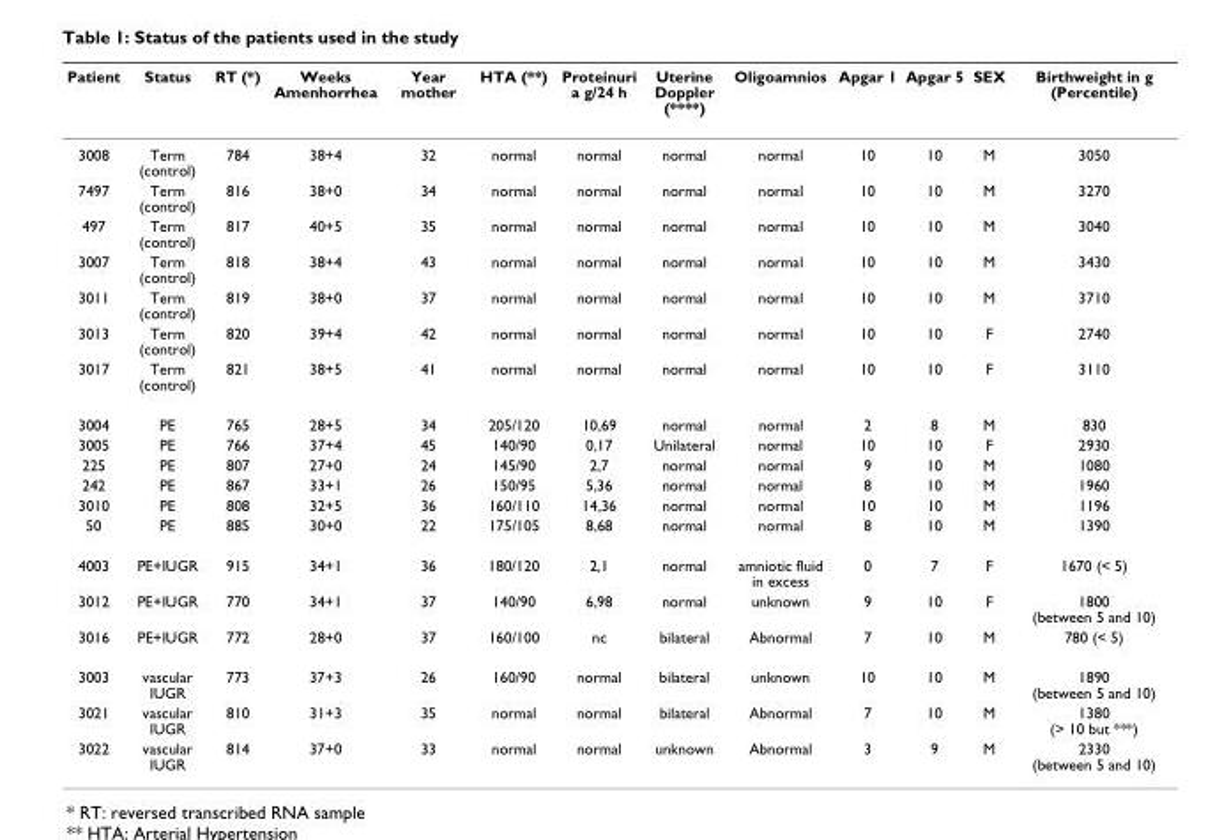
<table><thead><tr><td>Patient</td><td>Status</td><td>RT (*)</td><td>Weeks Amenhorrhea</td><td>Year mother</td><td>HTA (**)</td><td>Proteinuri a g/24 h</td><td>Uterine Doppler (****)</td><td>Oligoamnios</td><td>Apgar 1</td><td>Apgar 5</td><td>SEX</td><td>Birthweight in g (Percentile)</td></tr></thead><tbody><tr><td>3008</td><td>Term (control)</td><td>784</td><td>38+4</td><td>32</td><td>normal</td><td>normal</td><td>normal</td><td>normal</td><td>10</td><td>10</td><td>M</td><td>3050</td></tr><tr><td>7497</td><td>Term (control)</td><td>816</td><td>38+0</td><td>34</td><td>normal</td><td>normal</td><td>normal</td><td>normal</td><td>10</td><td>10</td><td>M</td><td>3270</td></tr><tr><td>497</td><td>Term (control)</td><td>817</td><td>40+5</td><td>35</td><td>normal</td><td>normal</td><td>normal</td><td>normal</td><td>10</td><td>10</td><td>M</td><td>3040</td></tr><tr><td>3007</td><td>Term (control)</td><td>818</td><td>38+4</td><td>43</td><td>normal</td><td>normal</td><td>normal</td><td>normal</td><td>10</td><td>10</td><td>M</td><td>3430</td></tr><tr><td>3011</td><td>Term (control)</td><td>819</td><td>38+0</td><td>37</td><td>normal</td><td>normal</td><td>normal</td><td>normal</td><td>10</td><td>10</td><td>M</td><td>3710</td></tr><tr><td>3013</td><td>Term (control)</td><td>820</td><td>39+4</td><td>42</td><td>normal</td><td>normal</td><td>normal</td><td>normal</td><td>10</td><td>10</td><td>F</td><td>2740</td></tr><tr><td>3017</td><td>Term (control)</td><td>821</td><td>38+5</td><td>41</td><td>normal</td><td>normal</td><td>normal</td><td>normal</td><td>10</td><td>10</td><td>F</td><td>3110</td></tr><tr><td>3004</td><td>PE</td><td>765</td><td>28+5</td><td>34</td><td>205/120</td><td>10,69</td><td>normal</td><td>normal</td><td>2</td><td>8</td><td>M</td><td>830</td></tr><tr><td>3005</td><td>PE</td><td>766</td><td>37+4</td><td>45</td><td>140/90</td><td>0,17</td><td>Unilateral</td><td>normal</td><td>10</td><td>10</td><td>F</td><td>2930</td></tr><tr><td>225</td><td>PE</td><td>807</td><td>27+0</td><td>24</td><td>145/90</td><td>2,7</td><td>normal</td><td>normal</td><td>9</td><td>10</td><td>M</td><td>1080</td></tr><tr><td>242</td><td>PE</td><td>867</td><td>33+1</td><td>26</td><td>150/95</td><td>5,36</td><td>normal</td><td>normal</td><td>8</td><td>10</td><td>M</td><td>1960</td></tr><tr><td>3010</td><td>PE</td><td>808</td><td>32+5</td><td>36</td><td>160/110</td><td>14,36</td><td>normal</td><td>normal</td><td>10</td><td>10</td><td>M</td><td>1196</td></tr><tr><td>50</td><td>PE</td><td>885</td><td>30+0</td><td>22</td><td>175/105</td><td>8,68</td><td>normal</td><td>normal</td><td>8</td><td>10</td><td>M</td><td>1390</td></tr><tr><td>4003</td><td>PE+IUGR</td><td>915</td><td>34+1</td><td>36</td><td>180/120</td><td>2,1</td><td>normal</td><td>amniotic fluid in excess</td><td>0</td><td>7</td><td>F</td><td>1670 (&lt; 5)</td></tr><tr><td>3012</td><td>PE+IUGR</td><td>770</td><td>34+1</td><td>37</td><td>140/90</td><td>6,98</td><td>normal</td><td>unknown</td><td>9</td><td>10</td><td>F</td><td>1800 (between 5 and 10)</td></tr><tr><td>3016</td><td>PE+IUGR</td><td>772</td><td>28+0</td><td>37</td><td>160/100</td><td>nc</td><td>bilateral</td><td>Abnormal</td><td>7</td><td>10</td><td>M</td><td>780 (&lt; 5)</td></tr><tr><td>3003</td><td>vascular IUGR</td><td>773</td><td>37+3</td><td>26</td><td>160/90</td><td>normal</td><td>bilateral</td><td>unknown</td><td>10</td><td>10</td><td>M</td><td>1890 (between 5 and 10)</td></tr><tr><td>3021</td><td>vascular IUGR</td><td>810</td><td>31+3</td><td>35</td><td>normal</td><td>normal</td><td>bilateral</td><td>Abnormal</td><td>7</td><td>10</td><td>M</td><td>1380 (&gt; 10 but ***)</td></tr><tr><td>3022</td><td>vascular IUGR</td><td>814</td><td>37+0</td><td>33</td><td>normal</td><td>normal</td><td>unknown</td><td>Abnormal</td><td>3</td><td>9</td><td>M</td><td>2330 (between 5 and 10)</td></tr></tbody></table>